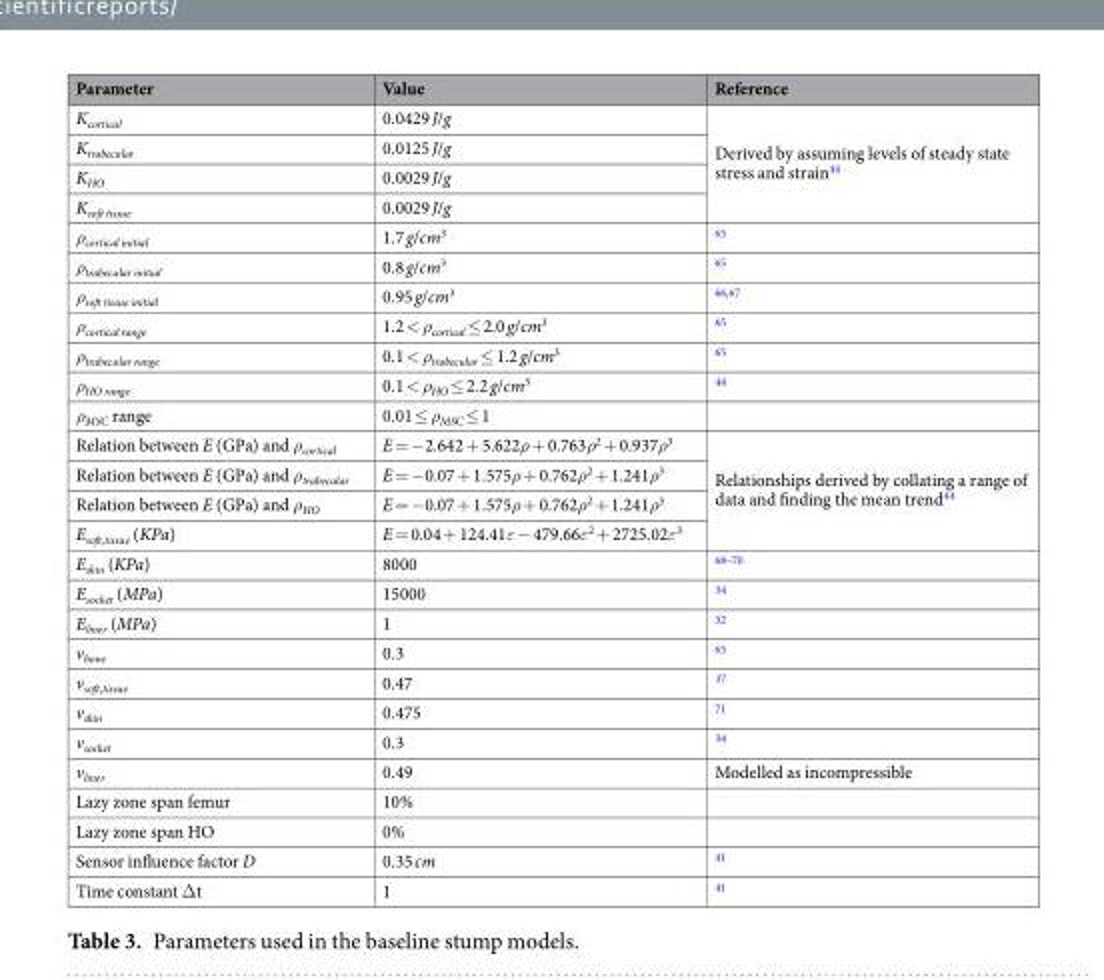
<table><thead><tr><td>Parameter</td><td>Value</td><td>Reference</td></tr></thead><tbody><tr><td>K<sub>cortical</sub></td><td>0.0429 J/g</td><td rowspan="4">Derived by assuming levels of steady state stress and strain<sup>44</sup></td></tr><tr><td>K<sub>trabecular</sub></td><td>0.0125 J/g</td></tr><tr><td>K<sub>HO</sub></td><td>0.0029 J/g</td></tr><tr><td>K<sub>soft tissue</sub></td><td>0.0029 J/g</td></tr><tr><td>ρ<sub>cortical initial</sub></td><td>1.7 g/cm<sup>3</sup></td><td><sup>65</sup></td></tr><tr><td>ρ<sub>trabecular initial</sub></td><td>0.8 g/cm<sup>3</sup></td><td><sup>65</sup></td></tr><tr><td>ρ<sub>soft tissue initial</sub></td><td>0.95 g/cm<sup>3</sup></td><td><sup>66,67</sup></td></tr><tr><td>ρ<sub>cortical range</sub></td><td>1.2 &lt; ρ<sub>cortical</sub> ≤ 2.0 g/cm<sup>3</sup></td><td><sup>65</sup></td></tr><tr><td>ρ<sub>trabecular range</sub></td><td>0.1 &lt; ρ<sub>trabecular</sub> ≤ 1.2 g/cm<sup>3</sup></td><td><sup>65</sup></td></tr><tr><td>ρ<sub>HO range</sub></td><td>0.1 &lt; ρ<sub>HO</sub> ≤ 2.2 g/cm<sup>3</sup></td><td><sup>44</sup></td></tr><tr><td>ρ<sub>MSC</sub> range</td><td>0.01 ≤ ρ<sub>MSC</sub> ≤ 1</td><td></td></tr><tr><td>Relation between E (GPa) and ρ<sub>cortical</sub></td><td>E = −2.642 + 5.622ρ + 0.763ρ<sup>2</sup> + 0.937ρ<sup>3</sup></td><td rowspan="4">Relationships derived by collating a range of data and finding the mean trend<sup>44</sup></td></tr><tr><td>Relation between E (GPa) and ρ<sub>trabecular</sub></td><td>E = −0.07 + 1.575ρ + 0.762ρ<sup>2</sup> + 1.241ρ<sup>3</sup></td></tr><tr><td>Relation between E (GPa) and ρ<sub>HO</sub></td><td>E = −0.07 + 1.575ρ + 0.762ρ<sup>2</sup> + 1.241ρ<sup>3</sup></td></tr><tr><td>E<sub>soft,tissue</sub> (KPa)</td><td>E = 0.04 + 124.41ε − 479.66ε<sup>2</sup> + 2725.02ε<sup>3</sup></td></tr><tr><td>E<sub>skin</sub> (KPa)</td><td>8000</td><td><sup>68–70</sup></td></tr><tr><td>E<sub>socket</sub> (MPa)</td><td>15000</td><td><sup>34</sup></td></tr><tr><td>E<sub>liner</sub> (MPa)</td><td>1</td><td><sup>32</sup></td></tr><tr><td>v<sub>bone</sub></td><td>0.3</td><td><sup>65</sup></td></tr><tr><td>v<sub>soft,tissue</sub></td><td>0.47</td><td><sup>37</sup></td></tr><tr><td>v<sub>skin</sub></td><td>0.475</td><td><sup>71</sup></td></tr><tr><td>v<sub>socket</sub></td><td>0.3</td><td><sup>34</sup></td></tr><tr><td>v<sub>liner</sub></td><td>0.49</td><td>Modelled as incompressible</td></tr><tr><td>Lazy zone span femur</td><td>10%</td><td></td></tr><tr><td>Lazy zone span HO</td><td>0%</td><td></td></tr><tr><td>Sensor influence factor D</td><td>0.35 cm</td><td><sup>41</sup></td></tr><tr><td>Time constant Δt</td><td>1</td><td><sup>41</sup></td></tr></tbody></table>